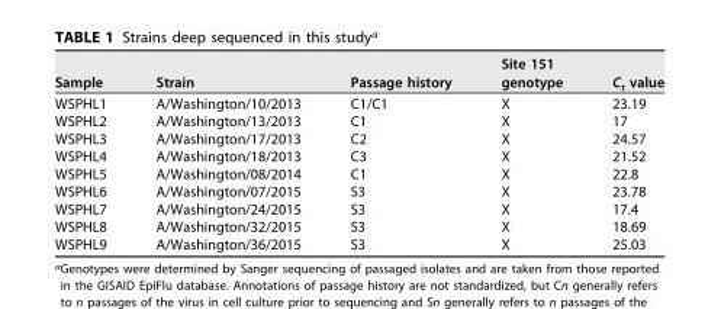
<table><thead><tr><td>Sample</td><td>Strain</td><td>Passage history</td><td>Site 151 genotype</td><td>C<sub>t</sub> value</td></tr></thead><tbody><tr><td>WSPHL1</td><td>A/Washington/10/2013</td><td>C1/C1</td><td>X</td><td>23.19</td></tr><tr><td>WSPHL2</td><td>A/Washington/13/2013</td><td>C1</td><td>X</td><td>17</td></tr><tr><td>WSPHL3</td><td>A/Washington/17/2013</td><td>C2</td><td>X</td><td>24.57</td></tr><tr><td>WSPHL4</td><td>A/Washington/18/2013</td><td>C3</td><td>X</td><td>21.52</td></tr><tr><td>WSPHL5</td><td>A/Washington/08/2014</td><td>C1</td><td>X</td><td>22.8</td></tr><tr><td>WSPHL6</td><td>A/Washington/07/2015</td><td>S3</td><td>X</td><td>23.78</td></tr><tr><td>WSPHL7</td><td>A/Washington/24/2015</td><td>S3</td><td>X</td><td>17.4</td></tr><tr><td>WSPHL8</td><td>A/Washington/32/2015</td><td>S3</td><td>X</td><td>18.69</td></tr><tr><td>WSPHL9</td><td>A/Washington/36/2015</td><td>S3</td><td>X</td><td>25.03</td></tr></tbody></table>